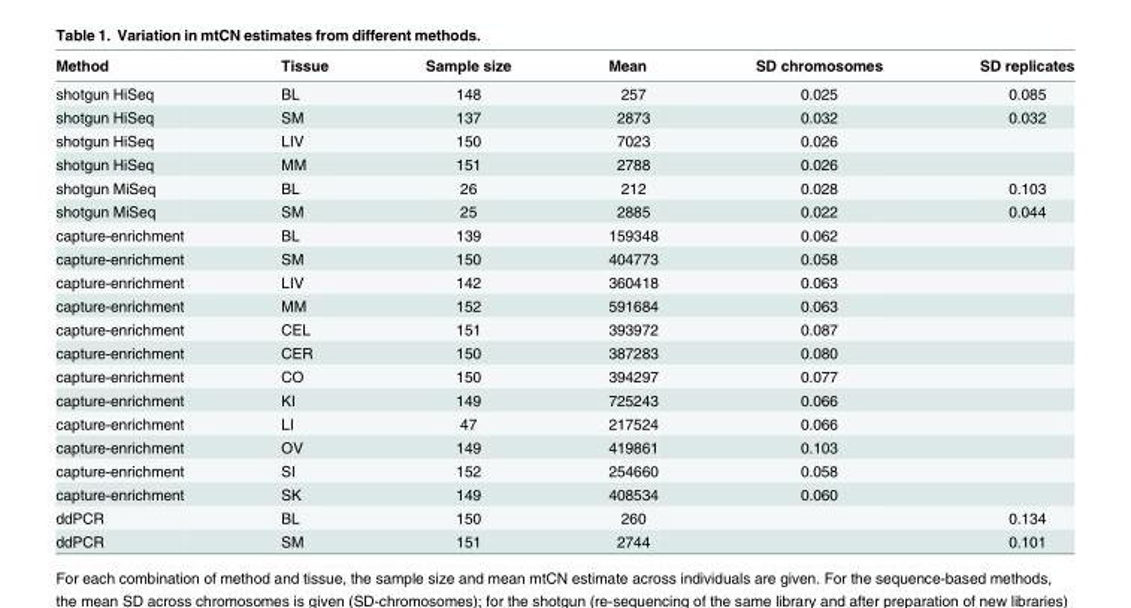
<table><thead><tr><td>Method</td><td>Tissue</td><td>Sample size</td><td>Mean</td><td>SD chromosomes</td><td>SD replicates</td></tr></thead><tbody><tr><td>shotgun HiSeq</td><td>BL</td><td>148</td><td>257</td><td>0.025</td><td>0.085</td></tr><tr><td>shotgun HiSeq</td><td>SM</td><td>137</td><td>2873</td><td>0.032</td><td>0.032</td></tr><tr><td>shotgun HiSeq</td><td>LIV</td><td>150</td><td>7023</td><td>0.026</td><td></td></tr><tr><td>shotgun HiSeq</td><td>MM</td><td>151</td><td>2788</td><td>0.026</td><td></td></tr><tr><td>shotgun MiSeq</td><td>BL</td><td>26</td><td>212</td><td>0.028</td><td>0.103</td></tr><tr><td>shotgun MiSeq</td><td>SM</td><td>25</td><td>2885</td><td>0.022</td><td>0.044</td></tr><tr><td>capture-enrichment</td><td>BL</td><td>139</td><td>159348</td><td>0.062</td><td></td></tr><tr><td>capture-enrichment</td><td>SM</td><td>150</td><td>404773</td><td>0.058</td><td></td></tr><tr><td>capture-enrichment</td><td>LIV</td><td>142</td><td>360418</td><td>0.063</td><td></td></tr><tr><td>capture-enrichment</td><td>MM</td><td>152</td><td>591684</td><td>0.063</td><td></td></tr><tr><td>capture-enrichment</td><td>CEL</td><td>151</td><td>393972</td><td>0.087</td><td></td></tr><tr><td>capture-enrichment</td><td>CER</td><td>150</td><td>387283</td><td>0.080</td><td></td></tr><tr><td>capture-enrichment</td><td>CO</td><td>150</td><td>394297</td><td>0.077</td><td></td></tr><tr><td>capture-enrichment</td><td>KI</td><td>149</td><td>725243</td><td>0.066</td><td></td></tr><tr><td>capture-enrichment</td><td>LI</td><td>47</td><td>217524</td><td>0.066</td><td></td></tr><tr><td>capture-enrichment</td><td>OV</td><td>149</td><td>419861</td><td>0.103</td><td></td></tr><tr><td>capture-enrichment</td><td>SI</td><td>152</td><td>254660</td><td>0.058</td><td></td></tr><tr><td>capture-enrichment</td><td>SK</td><td>149</td><td>408534</td><td>0.060</td><td></td></tr><tr><td>ddPCR</td><td>BL</td><td>150</td><td>260</td><td></td><td>0.134</td></tr><tr><td>ddPCR</td><td>SM</td><td>151</td><td>2744</td><td></td><td>0.101</td></tr></tbody></table>